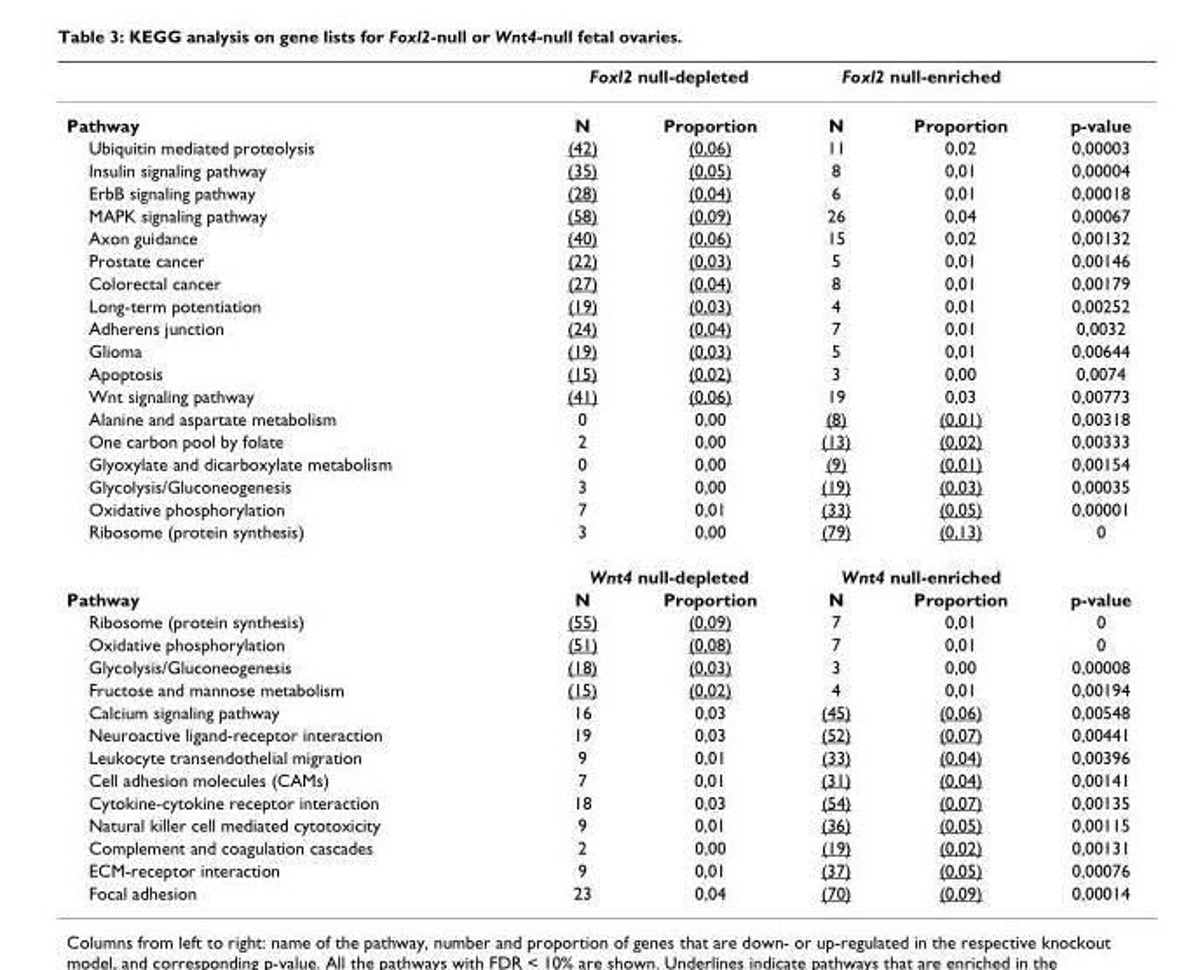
<table><thead><tr><td rowspan="2">Pathway</td><td colspan="2">Foxl2 null-depleted</td><td colspan="2">Foxl2 null-enriched</td><td rowspan="2">p-value</td></tr><tr><td>N</td><td>Proportion</td><td>N</td><td>Proportion</td></tr></thead><tbody><tr><td>Ubiquitin mediated proteolysis</td><td>(42)</td><td>(0,06)</td><td>11</td><td>0,02</td><td>0,00003</td></tr><tr><td>Insulin signaling pathway</td><td>(35)</td><td>(0,05)</td><td>8</td><td>0,01</td><td>0,00004</td></tr><tr><td>ErbB signaling pathway</td><td>(28)</td><td>(0,04)</td><td>6</td><td>0,01</td><td>0,00018</td></tr><tr><td>MAPK signaling pathway</td><td>(58)</td><td>(0,09)</td><td>26</td><td>0,04</td><td>0,00067</td></tr><tr><td>Axon guidance</td><td>(40)</td><td>(0,06)</td><td>15</td><td>0,02</td><td>0,00132</td></tr><tr><td>Prostate cancer</td><td>(22)</td><td>(0,03)</td><td>5</td><td>0,01</td><td>0,00146</td></tr><tr><td>Colorectal cancer</td><td>(27)</td><td>(0,04)</td><td>8</td><td>0,01</td><td>0,00179</td></tr><tr><td>Long-term potentiation</td><td>(19)</td><td>(0,03)</td><td>4</td><td>0,01</td><td>0,00252</td></tr><tr><td>Adherens junction</td><td>(24)</td><td>(0,04)</td><td>7</td><td>0,01</td><td>0,0032</td></tr><tr><td>Glioma</td><td>(19)</td><td>(0,03)</td><td>5</td><td>0,01</td><td>0,00644</td></tr><tr><td>Apoptosis</td><td>(15)</td><td>(0,02)</td><td>3</td><td>0,00</td><td>0,0074</td></tr><tr><td>Wnt signaling pathway</td><td>(41)</td><td>(0,06)</td><td>19</td><td>0,03</td><td>0,00773</td></tr><tr><td>Alanine and aspartate metabolism</td><td>0</td><td>0,00</td><td>(8)</td><td>(0,01)</td><td>0,00318</td></tr><tr><td>One carbon pool by folate</td><td>2</td><td>0,00</td><td>(13)</td><td>(0,02)</td><td>0,00333</td></tr><tr><td>Glyoxylate and dicarboxylate metabolism</td><td>0</td><td>0,00</td><td>(9)</td><td>(0,01)</td><td>0,00154</td></tr><tr><td>Glycolysis/Gluconeogenesis</td><td>3</td><td>0,00</td><td>(19)</td><td>(0,03)</td><td>0,00035</td></tr><tr><td>Oxidative phosphorylation</td><td>7</td><td>0,01</td><td>(33)</td><td>(0,05)</td><td>0,00001</td></tr><tr><td rowspan="2">Ribosome (protein synthesis)</td><td>3</td><td>0,00</td><td>(79)</td><td>(0,13)</td><td>0</td></tr><tr><td colspan="2">Wnt4 null-depleted</td><td colspan="2">Wnt4 null-enriched</td><td></td></tr><tr><td>Pathway</td><td>N</td><td>Proportion</td><td>N</td><td>Proportion</td><td>p-value</td></tr><tr><td>Ribosome (protein synthesis)</td><td>(55)</td><td>(0,09)</td><td>7</td><td>0,01</td><td>0</td></tr><tr><td>Oxidative phosphorylation</td><td>(51)</td><td>(0,08)</td><td>7</td><td>0,01</td><td>0</td></tr><tr><td>Glycolysis/Gluconeogenesis</td><td>(18)</td><td>(0,03)</td><td>3</td><td>0,00</td><td>0,00008</td></tr><tr><td>Fructose and mannose metabolism</td><td>(15)</td><td>(0,02)</td><td>4</td><td>0,01</td><td>0,00194</td></tr><tr><td>Calcium signaling pathway</td><td>16</td><td>0,03</td><td>(45)</td><td>(0,06)</td><td>0,00548</td></tr><tr><td>Neuroactive ligand-receptor interaction</td><td>19</td><td>0,03</td><td>(52)</td><td>(0,07)</td><td>0,00441</td></tr><tr><td>Leukocyte transendothelial migration</td><td>9</td><td>0,01</td><td>(33)</td><td>(0,04)</td><td>0,00396</td></tr><tr><td>Cell adhesion molecules (CAMs)</td><td>7</td><td>0,01</td><td>(31)</td><td>(0,04)</td><td>0,00141</td></tr><tr><td>Cytokine-cytokine receptor interaction</td><td>18</td><td>0,03</td><td>(54)</td><td>(0,07)</td><td>0,00135</td></tr><tr><td>Natural killer cell mediated cytotoxicity</td><td>9</td><td>0,01</td><td>(36)</td><td>(0,05)</td><td>0,00115</td></tr><tr><td>Complement and coagulation cascades</td><td>2</td><td>0,00</td><td>(19)</td><td>(0,02)</td><td>0,00131</td></tr><tr><td>ECM-receptor interaction</td><td>9</td><td>0,01</td><td>(37)</td><td>(0,05)</td><td>0,00076</td></tr><tr><td>Focal adhesion</td><td>23</td><td>0,04</td><td>(70)</td><td>(0,09)</td><td>0,00014</td></tr></tbody></table>